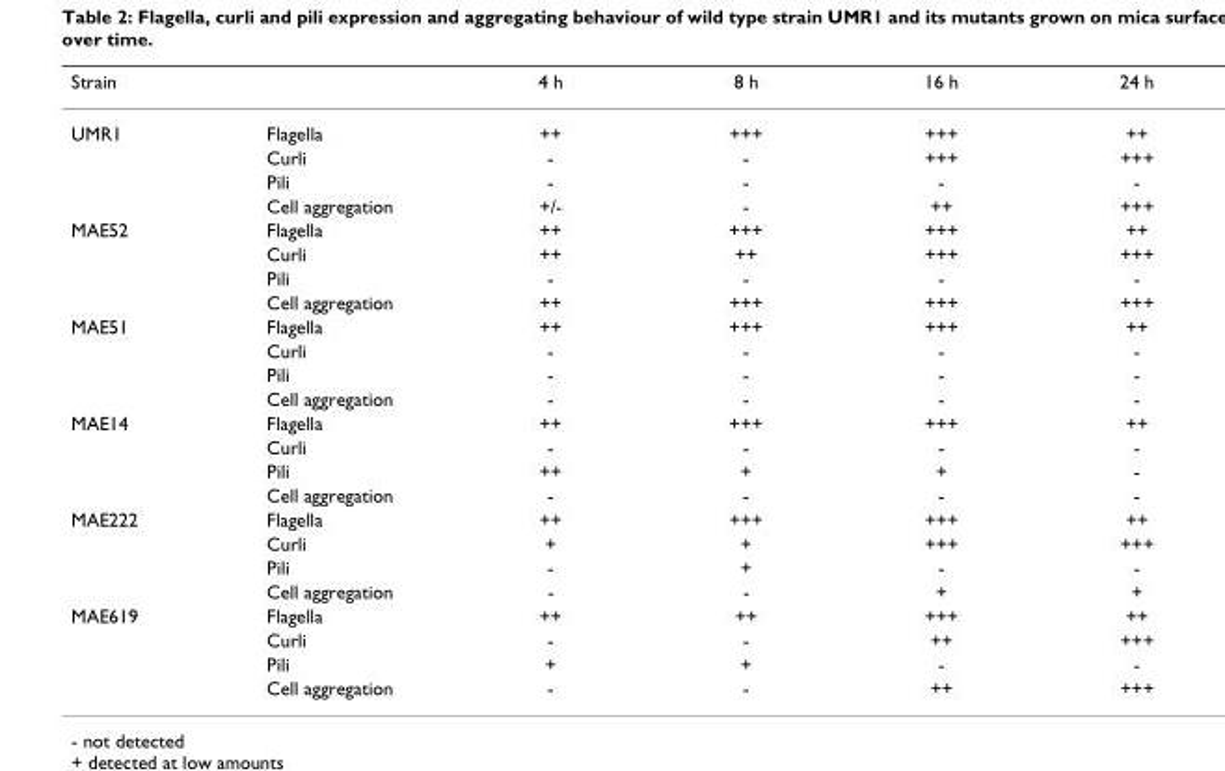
<table><thead><tr><td>Strain</td><td></td><td>4 h</td><td>8 h</td><td>16 h</td><td>24 h</td></tr></thead><tbody><tr><td rowspan="4">UMR1</td><td>Flagella</td><td>++</td><td>+++</td><td>+++</td><td>++</td></tr><tr><td>Curli</td><td>-</td><td>-</td><td>+++</td><td>+++</td></tr><tr><td>Pili</td><td>-</td><td>-</td><td>-</td><td>-</td></tr><tr><td>Cell aggregation</td><td>+/-</td><td>-</td><td>++</td><td>+++</td></tr><tr><td rowspan="4">MAE52</td><td>Flagella</td><td>++</td><td>+++</td><td>+++</td><td>++</td></tr><tr><td>Curli</td><td>++</td><td>++</td><td>+++</td><td>+++</td></tr><tr><td>Pili</td><td>-</td><td>-</td><td>-</td><td>-</td></tr><tr><td>Cell aggregation</td><td>++</td><td>+++</td><td>+++</td><td>+++</td></tr><tr><td rowspan="4">MAE51</td><td>Flagella</td><td>++</td><td>+++</td><td>+++</td><td>++</td></tr><tr><td>Curli</td><td>-</td><td>-</td><td>-</td><td>-</td></tr><tr><td>Pili</td><td>-</td><td>-</td><td>-</td><td>-</td></tr><tr><td>Cell aggregation</td><td>-</td><td>-</td><td>-</td><td>-</td></tr><tr><td rowspan="4">MAE14</td><td>Flagella</td><td>++</td><td>+++</td><td>+++</td><td>++</td></tr><tr><td>Curli</td><td>-</td><td>-</td><td>-</td><td>-</td></tr><tr><td>Pili</td><td>++</td><td>+</td><td>+</td><td>-</td></tr><tr><td>Cell aggregation</td><td>-</td><td>-</td><td>-</td><td>-</td></tr><tr><td rowspan="4">MAE222</td><td>Flagella</td><td>++</td><td>+++</td><td>+++</td><td>++</td></tr><tr><td>Curli</td><td>+</td><td>+</td><td>+++</td><td>+++</td></tr><tr><td>Pili</td><td>-</td><td>+</td><td>-</td><td>-</td></tr><tr><td>Cell aggregation</td><td>-</td><td>-</td><td>+</td><td>+</td></tr><tr><td rowspan="4">MAE619</td><td>Flagella</td><td>++</td><td>++</td><td>+++</td><td>++</td></tr><tr><td>Curli</td><td>-</td><td>-</td><td>++</td><td>+++</td></tr><tr><td>Pili</td><td>+</td><td>+</td><td>-</td><td>-</td></tr><tr><td>Cell aggregation</td><td>-</td><td>-</td><td>++</td><td>+++</td></tr></tbody></table>